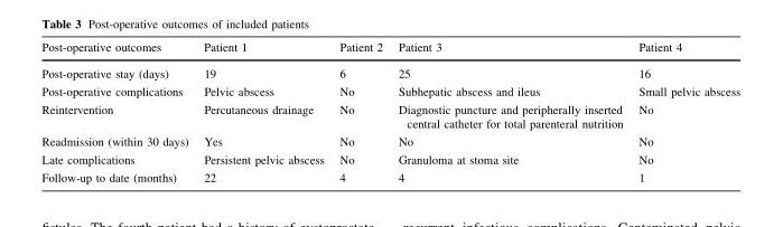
<table><thead><tr><td>Post-operative outcomes</td><td>Patient 1</td><td>Patient 2</td><td>Patient 3</td><td>Patient 4</td></tr></thead><tbody><tr><td>Post-operative stay (days)</td><td>19</td><td>6</td><td>25</td><td>16</td></tr><tr><td>Post-operative complications</td><td>Pelvic abscess</td><td>No</td><td>Subhepatic abscess and ileus</td><td>Small pelvic abscess</td></tr><tr><td>Reintervention</td><td>Percutaneous drainage</td><td>No</td><td>Diagnostic puncture and peripherally inserted central catheter for total parenteral nutrition</td><td>No</td></tr><tr><td>Readmission (within 30 days)</td><td>Yes</td><td>No</td><td>No</td><td>No</td></tr><tr><td>Late complications</td><td>Persistent pelvic abscess</td><td>No</td><td>Granuloma at stoma site</td><td>No</td></tr><tr><td>Follow-up to date (months)</td><td>22</td><td>4</td><td>4</td><td>1</td></tr></tbody></table>